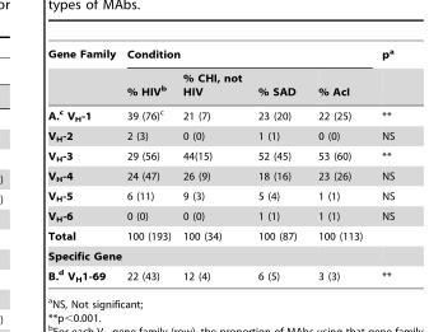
<table><thead><tr><td rowspan="2">Gene Family</td><td colspan="4">Condition</td><td rowspan="2">p<sup>a</sup></td></tr><tr><td>% HIV<sup>b</sup></td><td>% CHI, not HIV</td><td>% SAD</td><td>% AcI</td></tr></thead><tbody><tr><td>A.c V<sub>H</sub>-1</td><td>39 (76)<sup>c</sup></td><td>21 (7)</td><td>23 (20)</td><td>22 (25)</td><td>**</td></tr><tr><td>V<sub>H</sub>-2</td><td>2 (3)</td><td>0 (0)</td><td>1 (1)</td><td>0 (0)</td><td>NS</td></tr><tr><td>V<sub>H</sub>-3</td><td>29 (56)</td><td>44(15)</td><td>52 (45)</td><td>53 (60)</td><td>**</td></tr><tr><td>V<sub>H</sub>-4</td><td>24 (47)</td><td>26 (9)</td><td>18 (16)</td><td>23 (26)</td><td>NS</td></tr><tr><td>V<sub>H</sub>-5</td><td>6 (11)</td><td>9 (3)</td><td>5 (4)</td><td>1 (1)</td><td>NS</td></tr><tr><td>V<sub>H</sub>-6</td><td>0 (0)</td><td>0 (0)</td><td>1 (1)</td><td>1 (1)</td><td>NS</td></tr><tr><td>Total</td><td>100 (193)</td><td>100 (34)</td><td>100 (87)</td><td>100 (113)</td><td></td></tr><tr><td colspan="6">Specific Gene</td></tr><tr><td>B.d V<sub>H</sub>1-69</td><td>22 (43)</td><td>12 (4)</td><td>6 (5)</td><td>3 (3)</td><td>**</td></tr></tbody></table>